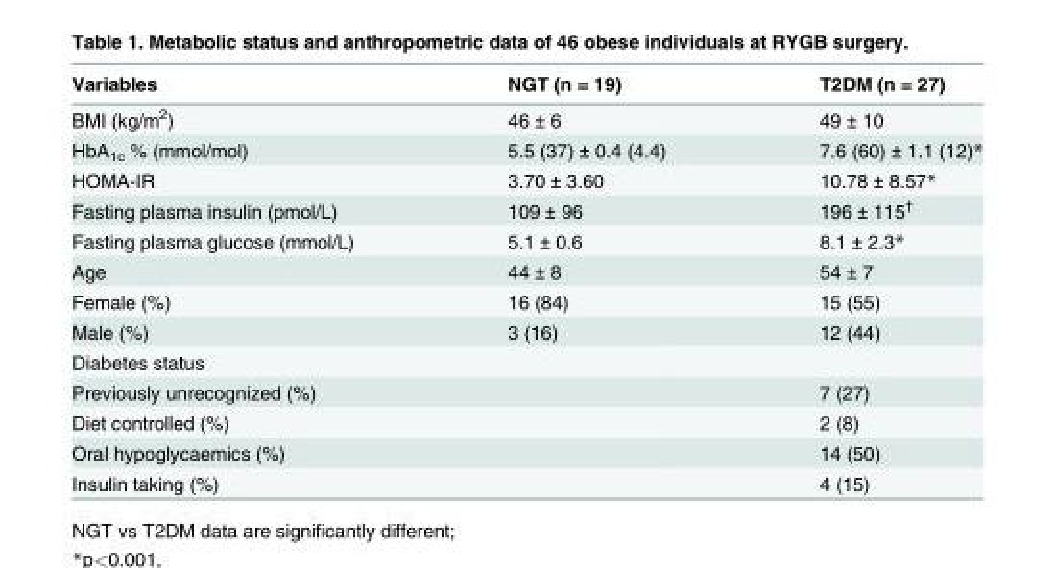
<table><thead><tr><td>Variables</td><td>NGT (n = 19)</td><td>T2DM (n = 27)</td></tr></thead><tbody><tr><td>BMI (kg/m<sup>2</sup>)</td><td>46 ± 6</td><td>49 ± 10</td></tr><tr><td>HbA<sub>1c</sub> % (mmol/mol)</td><td>5.5 (37) ± 0.4 (4.4)</td><td>7.6 (60) ± 1.1 (12)*</td></tr><tr><td>HOMA-IR</td><td>3.70 ± 3.60</td><td>10.78 ± 8.57*</td></tr><tr><td>Fasting plasma insulin (pmol/L)</td><td>109 ± 96</td><td>196 ± 115<sup>†</sup></td></tr><tr><td>Fasting plasma glucose (mmol/L)</td><td>5.1 ± 0.6</td><td>8.1 ± 2.3*</td></tr><tr><td>Age</td><td>44 ± 8</td><td>54 ± 7</td></tr><tr><td>Female (%)</td><td>16 (84)</td><td>15 (55)</td></tr><tr><td>Male (%)</td><td>3 (16)</td><td>12 (44)</td></tr><tr><td colspan="3">Diabetes status</td></tr><tr><td>Previously unrecognized (%)</td><td></td><td>7 (27)</td></tr><tr><td>Diet controlled (%)</td><td></td><td>2 (8)</td></tr><tr><td>Oral hypoglycaemics (%)</td><td></td><td>14 (50)</td></tr><tr><td>Insulin taking (%)</td><td></td><td>4 (15)</td></tr></tbody></table>